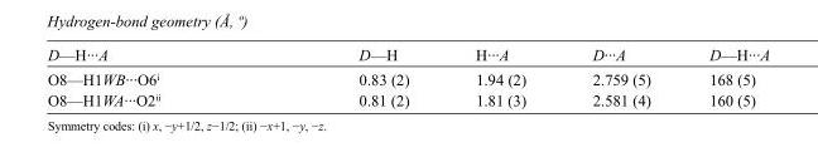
<table><tbody><tr><td>D—H···A</td><td>D—H</td><td>H···A</td><td>D···A</td><td>D—H···A</td></tr><tr><td>O8—H1WB···O6<sup>i</sup></td><td>0.83 (2)</td><td>1.94 (2)</td><td>2.759 (5)</td><td>168 (5)</td></tr><tr><td>O8—H1WA···O2<sup>ii</sup></td><td>0.81 (2)</td><td>1.81 (3)</td><td>2.581 (4)</td><td>160 (5)</td></tr></tbody></table>